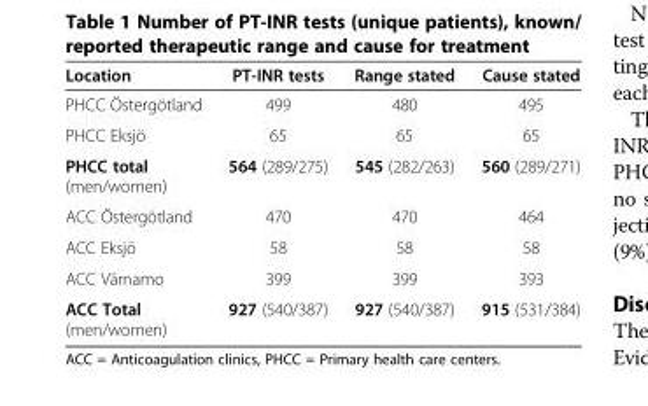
<table><thead><tr><td>Location</td><td>PT-INR tests</td><td>Range stated</td><td>Cause stated</td></tr></thead><tbody><tr><td>PHCC Östergötland</td><td>499</td><td>480</td><td>495</td></tr><tr><td>PHCC Eksjö</td><td>65</td><td>65</td><td>65</td></tr><tr><td>PHCC total (men/women)</td><td>564 (289/275)</td><td>545 (282/263)</td><td>560 (289/271)</td></tr><tr><td>ACC Östergötland</td><td>470</td><td>470</td><td>464</td></tr><tr><td>ACC Eksjö</td><td>58</td><td>58</td><td>58</td></tr><tr><td>ACC Värnamo</td><td>399</td><td>399</td><td>393</td></tr><tr><td>ACC Total (men/women)</td><td>927 (540/387)</td><td>927 (540/387)</td><td>915 (531/384)</td></tr></tbody></table>